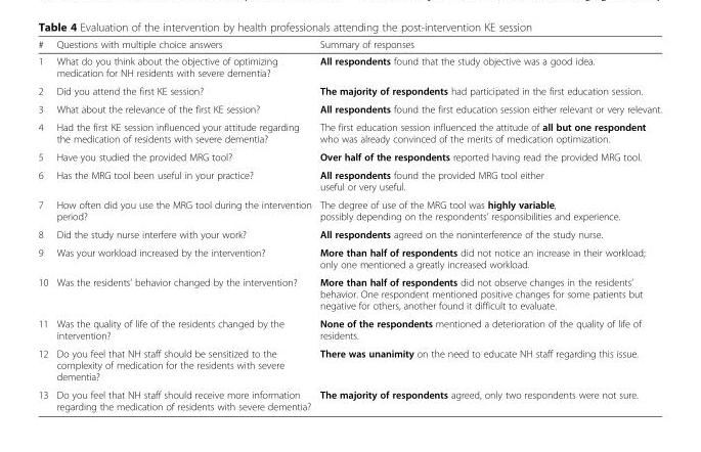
<table><thead><tr><td>#</td><td>Questions with multiple choice answers</td><td>Summary of responses</td></tr></thead><tbody><tr><td>1</td><td>What do you think about the objective of optimizing medication for NH residents with severe dementia?</td><td>All respondents found that the study objective was a good idea.</td></tr><tr><td>2</td><td>Did you attend the first KE session?</td><td>The majority of respondents had participated in the first education session.</td></tr><tr><td>3</td><td>What about the relevance of the first KE session?</td><td>All respondents found the first education session either relevant or very relevant.</td></tr><tr><td>4</td><td>Had the first KE session influenced your attitude regarding the medication of residents with severe dementia?</td><td>The first education session influenced the attitude of all but one respondent who was already convinced of the merits of medication optimization.</td></tr><tr><td>5</td><td>Have you studied the provided MRG tool?</td><td>Over half of the respondents reported having read the provided MRG tool.</td></tr><tr><td>6</td><td>Has the MRG tool been useful in your practice?</td><td>All respondents found the provided MRG tool either useful or very useful.</td></tr><tr><td>7</td><td>How often did you use the MRG tool during the intervention period?</td><td>The degree of use of the MRG tool was highly variable, possibly depending on the respondents’ responsibilities and experience.</td></tr><tr><td>8</td><td>Did the study nurse interfere with your work?</td><td>All respondents agreed on the noninterference of the study nurse.</td></tr><tr><td>9</td><td>Was your workload increased by the intervention?</td><td>More than half of respondents did not notice an increase in their workload; only one mentioned a greatly increased workload.</td></tr><tr><td>10</td><td>Was the residents’ behavior changed by the intervention?</td><td>More than half of respondents did not observe changes in the residents’ behavior. One respondent mentioned positive changes for some patients but negative for others, another found it difficult to evaluate.</td></tr><tr><td>11</td><td>Was the quality of life of the residents changed by the intervention?</td><td>None of the respondents mentioned a deterioration of the quality of life of residents.</td></tr><tr><td>12</td><td>Do you feel that NH staff should be sensitized to the complexity of medication for the residents with severe dementia?</td><td>There was unanimity on the need to educate NH staff regarding this issue.</td></tr><tr><td>13</td><td>Do you feel that NH staff should receive more information regarding the medication of residents with severe dementia?</td><td>The majority of respondents agreed, only two respondents were not sure.</td></tr></tbody></table>